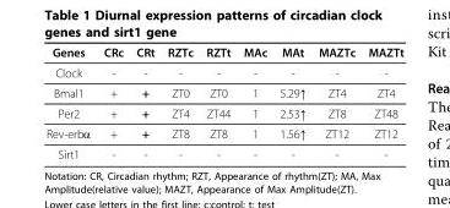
<table><thead><tr><td>Genes</td><td>CRc</td><td>CRt</td><td>RZTc</td><td>RZTt</td><td>MAc</td><td>MAt</td><td>MAZTc</td><td>MAZTt</td></tr></thead><tbody><tr><td>Clock</td><td>-</td><td>-</td><td>-</td><td>-</td><td>-</td><td>-</td><td>-</td><td>-</td></tr><tr><td>Bmal1</td><td>+</td><td>+</td><td>ZT0</td><td>ZT0</td><td>1</td><td>5.29↑</td><td>ZT4</td><td>ZT4</td></tr><tr><td>Per2</td><td>+</td><td>+</td><td>ZT4</td><td>ZT44</td><td>1</td><td>2.53↑</td><td>ZT8</td><td>ZT48</td></tr><tr><td>Rev-erbα</td><td>+</td><td>+</td><td>ZT8</td><td>ZT8</td><td>1</td><td>1.56↑</td><td>ZT12</td><td>ZT12</td></tr><tr><td>Sirt1</td><td>-</td><td>-</td><td>-</td><td>-</td><td>-</td><td>-</td><td>-</td><td>-</td></tr></tbody></table>